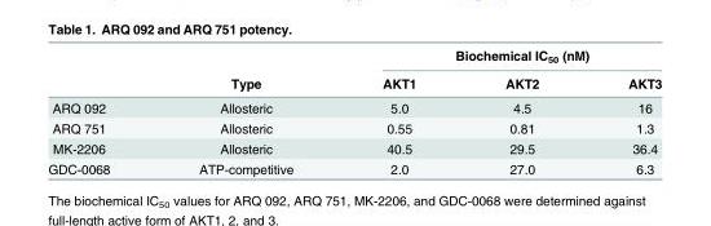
<table><thead><tr><td rowspan="2"></td><td rowspan="2">Type</td><td colspan="3">Biochemical IC<sub>50</sub> (nM)</td></tr><tr><td>AKT1</td><td>AKT2</td><td>AKT3</td></tr></thead><tbody><tr><td>ARQ 092</td><td>Allosteric</td><td>5.0</td><td>4.5</td><td>16</td></tr><tr><td>ARQ 751</td><td>Allosteric</td><td>0.55</td><td>0.81</td><td>1.3</td></tr><tr><td>MK-2206</td><td>Allosteric</td><td>40.5</td><td>29.5</td><td>36.4</td></tr><tr><td>GDC-0068</td><td>ATP-competitive</td><td>2.0</td><td>27.0</td><td>6.3</td></tr></tbody></table>